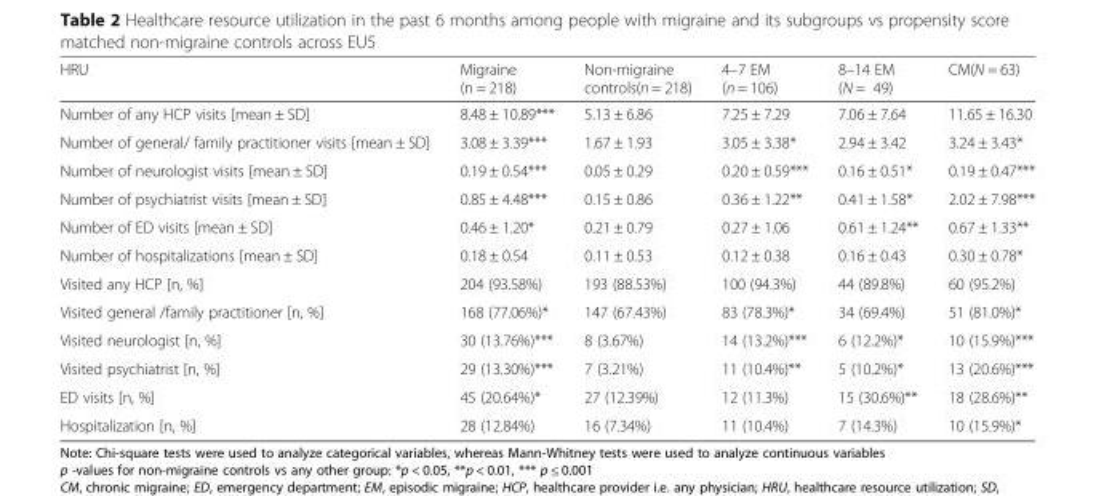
<table><thead><tr><td>HRU</td><td>Migraine (n = 218)</td><td>Non-migraine controls(n = 218)</td><td>4–7 EM (n = 106)</td><td>8–14 EM (N = 49)</td><td>CM(N = 63)</td></tr></thead><tbody><tr><td>Number of any HCP visits [mean ± SD]</td><td>8.48 ± 10.89***</td><td>5.13 ± 6.86</td><td>7.25 ± 7.29</td><td>7.06 ± 7.64</td><td>11.65 ± 16.30</td></tr><tr><td>Number of general/ family practitioner visits [mean ± SD]</td><td>3.08 ± 3.39***</td><td>1.67 ± 1.93</td><td>3.05 ± 3.38*</td><td>2.94 ± 3.42</td><td>3.24 ± 3.43*</td></tr><tr><td>Number of neurologist visits [mean ± SD]</td><td>0.19 ± 0.54***</td><td>0.05 ± 0.29</td><td>0.20 ± 0.59***</td><td>0.16 ± 0.51*</td><td>0.19 ± 0.47***</td></tr><tr><td>Number of psychiatrist visits [mean ± SD]</td><td>0.85 ± 4.48***</td><td>0.15 ± 0.86</td><td>0.36 ± 1.22**</td><td>0.41 ± 1.58*</td><td>2.02 ± 7.98***</td></tr><tr><td>Number of ED visits [mean ± SD]</td><td>0.46 ± 1.20*</td><td>0.21 ± 0.79</td><td>0.27 ± 1.06</td><td>0.61 ± 1.24**</td><td>0.67 ± 1.33**</td></tr><tr><td>Number of hospitalizations [mean ± SD]</td><td>0.18 ± 0.54</td><td>0.11 ± 0.53</td><td>0.12 ± 0.38</td><td>0.16 ± 0.43</td><td>0.30 ± 0.78*</td></tr><tr><td>Visited any HCP [n, %]</td><td>204 (93.58%)</td><td>193 (88.53%)</td><td>100 (94.3%)</td><td>44 (89.8%)</td><td>60 (95.2%)</td></tr><tr><td>Visited general /family practitioner [n, %]</td><td>168 (77.06%)*</td><td>147 (67.43%)</td><td>83 (78.3%)*</td><td>34 (69.4%)</td><td>51 (81.0%)*</td></tr><tr><td>Visited neurologist [n, %]</td><td>30 (13.76%)***</td><td>8 (3.67%)</td><td>14 (13.2%)***</td><td>6 (12.2%)*</td><td>10 (15.9%)***</td></tr><tr><td>Visited psychiatrist [n, %]</td><td>29 (13.30%)***</td><td>7 (3.21%)</td><td>11 (10.4%)**</td><td>5 (10.2%)*</td><td>13 (20.6%)***</td></tr><tr><td>ED visits [n, %]</td><td>45 (20.64%)*</td><td>27 (12.39%)</td><td>12 (11.3%)</td><td>15 (30.6%)**</td><td>18 (28.6%)**</td></tr><tr><td>Hospitalization [n, %]</td><td>28 (12.84%)</td><td>16 (7.34%)</td><td>11 (10.4%)</td><td>7 (14.3%)</td><td>10 (15.9%)*</td></tr></tbody></table>